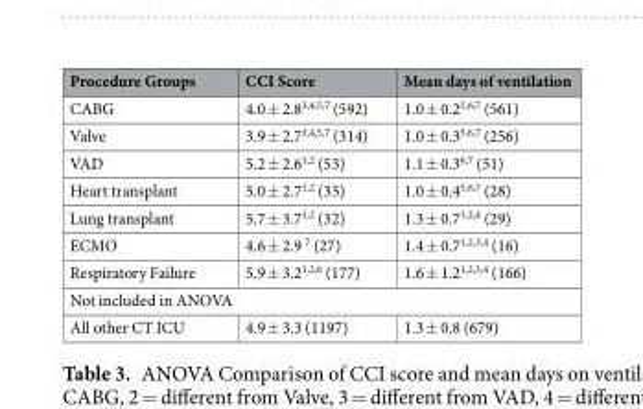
<table><thead><tr><td>Procedure Groups</td><td>CCI Score</td><td>Mean days of ventilation</td></tr></thead><tbody><tr><td>CABG</td><td>4.0 ± 2.8<sup>3,4,5,7</sup> (592)</td><td>1.0 ± 0.2<sup>5,6,7</sup> (561)</td></tr><tr><td>Valve</td><td>3.9 ± 2.7<sup>3,4,5,7</sup> (314)</td><td>1.0 ± 0.3<sup>5,6,7</sup> (256)</td></tr><tr><td>VAD</td><td>5.2 ± 2.6<sup>1,2</sup> (53)</td><td>1.1 ± 0.3<sup>6,7</sup> (51)</td></tr><tr><td>Heart transplant</td><td>5.0 ± 2.7<sup>1,2</sup> (35)</td><td>1.0 ± 0.4<sup>5,6,7</sup> (28)</td></tr><tr><td>Lung transplant</td><td>5.7 ± 3.7<sup>1,2</sup> (32)</td><td>1.3 ± 0.7<sup>1,2,4</sup> (29)</td></tr><tr><td>ECMO</td><td>4.6 ± 2.9 <sup>7</sup> (27)</td><td>1.4 ± 0.7<sup>1,2,3,4</sup> (16)</td></tr><tr><td>Respiratory Failure</td><td>5.9 ± 3.2<sup>1,2,6</sup> (177)</td><td>1.6 ± 1.2<sup>1,2,3,4</sup> (166)</td></tr><tr><td colspan="3">Not included in ANOVA</td></tr><tr><td>All other CT ICU</td><td>4.9 ± 3.3 (1197)</td><td>1.3 ± 0.8 (679)</td></tr></tbody></table>